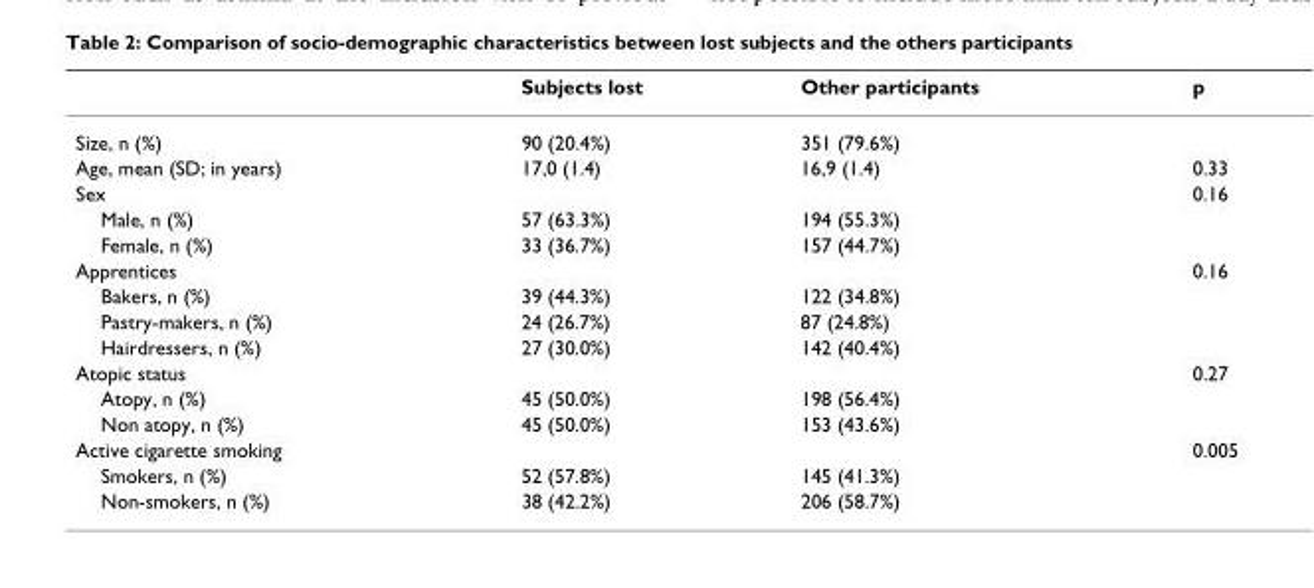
<table><thead><tr><td></td><td>Subjects lost</td><td>Other participants</td><td>p</td></tr></thead><tbody><tr><td>Size, n (%)</td><td>90 (20.4%)</td><td>351 (79.6%)</td><td></td></tr><tr><td>Age, mean (SD; in years)</td><td>17,0 (1.4)</td><td>16,9 (1.4)</td><td>0.33</td></tr><tr><td>Sex</td><td></td><td></td><td>0.16</td></tr><tr><td>Male, n (%)</td><td>57 (63.3%)</td><td>194 (55.3%)</td><td></td></tr><tr><td>Female, n (%)</td><td>33 (36.7%)</td><td>157 (44.7%)</td><td></td></tr><tr><td>Apprentices</td><td></td><td></td><td>0.16</td></tr><tr><td>Bakers, n (%)</td><td>39 (44.3%)</td><td>122 (34.8%)</td><td></td></tr><tr><td>Pastry-makers, n (%)</td><td>24 (26.7%)</td><td>87 (24.8%)</td><td></td></tr><tr><td>Hairdressers, n (%)</td><td>27 (30.0%)</td><td>142 (40.4%)</td><td></td></tr><tr><td>Atopic status</td><td></td><td></td><td>0.27</td></tr><tr><td>Atopy, n (%)</td><td>45 (50.0%)</td><td>198 (56.4%)</td><td></td></tr><tr><td>Non atopy, n (%)</td><td>45 (50.0%)</td><td>153 (43.6%)</td><td></td></tr><tr><td>Active cigarette smoking</td><td></td><td></td><td>0.005</td></tr><tr><td>Smokers, n (%)</td><td>52 (57.8%)</td><td>145 (41.3%)</td><td></td></tr><tr><td>Non-smokers, n (%)</td><td>38 (42.2%)</td><td>206 (58.7%)</td><td></td></tr></tbody></table>